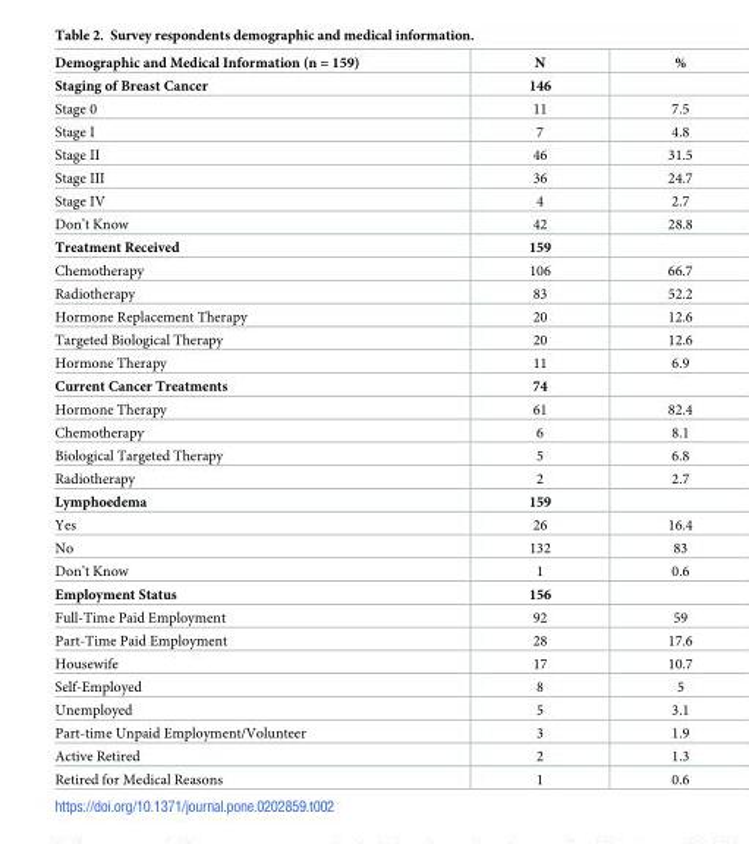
<table><thead><tr><td>Demographic and Medical Information (n = 159)</td><td>N</td><td>%</td></tr></thead><tbody><tr><td>Staging of Breast Cancer</td><td>146</td><td></td></tr><tr><td>Stage 0</td><td>11</td><td>7.5</td></tr><tr><td>Stage I</td><td>7</td><td>4.8</td></tr><tr><td>Stage II</td><td>46</td><td>31.5</td></tr><tr><td>Stage III</td><td>36</td><td>24.7</td></tr><tr><td>Stage IV</td><td>4</td><td>2.7</td></tr><tr><td>Don’t Know</td><td>42</td><td>28.8</td></tr><tr><td>Treatment Received</td><td>159</td><td></td></tr><tr><td>Chemotherapy</td><td>106</td><td>66.7</td></tr><tr><td>Radiotherapy</td><td>83</td><td>52.2</td></tr><tr><td>Hormone Replacement Therapy</td><td>20</td><td>12.6</td></tr><tr><td>Targeted Biological Therapy</td><td>20</td><td>12.6</td></tr><tr><td>Hormone Therapy</td><td>11</td><td>6.9</td></tr><tr><td>Current Cancer Treatments</td><td>74</td><td></td></tr><tr><td>Hormone Therapy</td><td>61</td><td>82.4</td></tr><tr><td>Chemotherapy</td><td>6</td><td>8.1</td></tr><tr><td>Biological Targeted Therapy</td><td>5</td><td>6.8</td></tr><tr><td>Radiotherapy</td><td>2</td><td>2.7</td></tr><tr><td>Lymphoedema</td><td>159</td><td></td></tr><tr><td>Yes</td><td>26</td><td>16.4</td></tr><tr><td>No</td><td>132</td><td>83</td></tr><tr><td>Don’t Know</td><td>1</td><td>0.6</td></tr><tr><td>Employment Status</td><td>156</td><td></td></tr><tr><td>Full-Time Paid Employment</td><td>92</td><td>59</td></tr><tr><td>Part-Time Paid Employment</td><td>28</td><td>17.6</td></tr><tr><td>Housewife</td><td>17</td><td>10.7</td></tr><tr><td>Self-Employed</td><td>8</td><td>5</td></tr><tr><td>Unemployed</td><td>5</td><td>3.1</td></tr><tr><td>Part-time Unpaid Employment/Volunteer</td><td>3</td><td>1.9</td></tr><tr><td>Active Retired</td><td>2</td><td>1.3</td></tr><tr><td>Retired for Medical Reasons</td><td>1</td><td>0.6</td></tr></tbody></table>